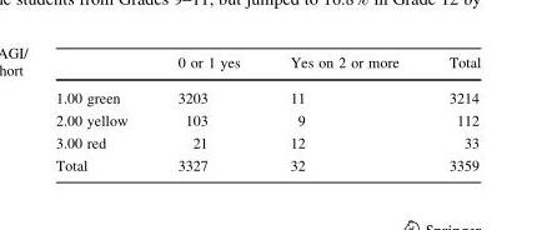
<table><thead><tr><td></td><td>0 or 1 yes</td><td>Yes on 2 or more</td><td>Total</td></tr></thead><tbody><tr><td>1.00 green</td><td>3203</td><td>11</td><td>3214</td></tr><tr><td>2.00 yellow</td><td>103</td><td>9</td><td>112</td></tr><tr><td>3.00 red</td><td>21</td><td>12</td><td>33</td></tr><tr><td>Total</td><td>3327</td><td>32</td><td>3359</td></tr></tbody></table>